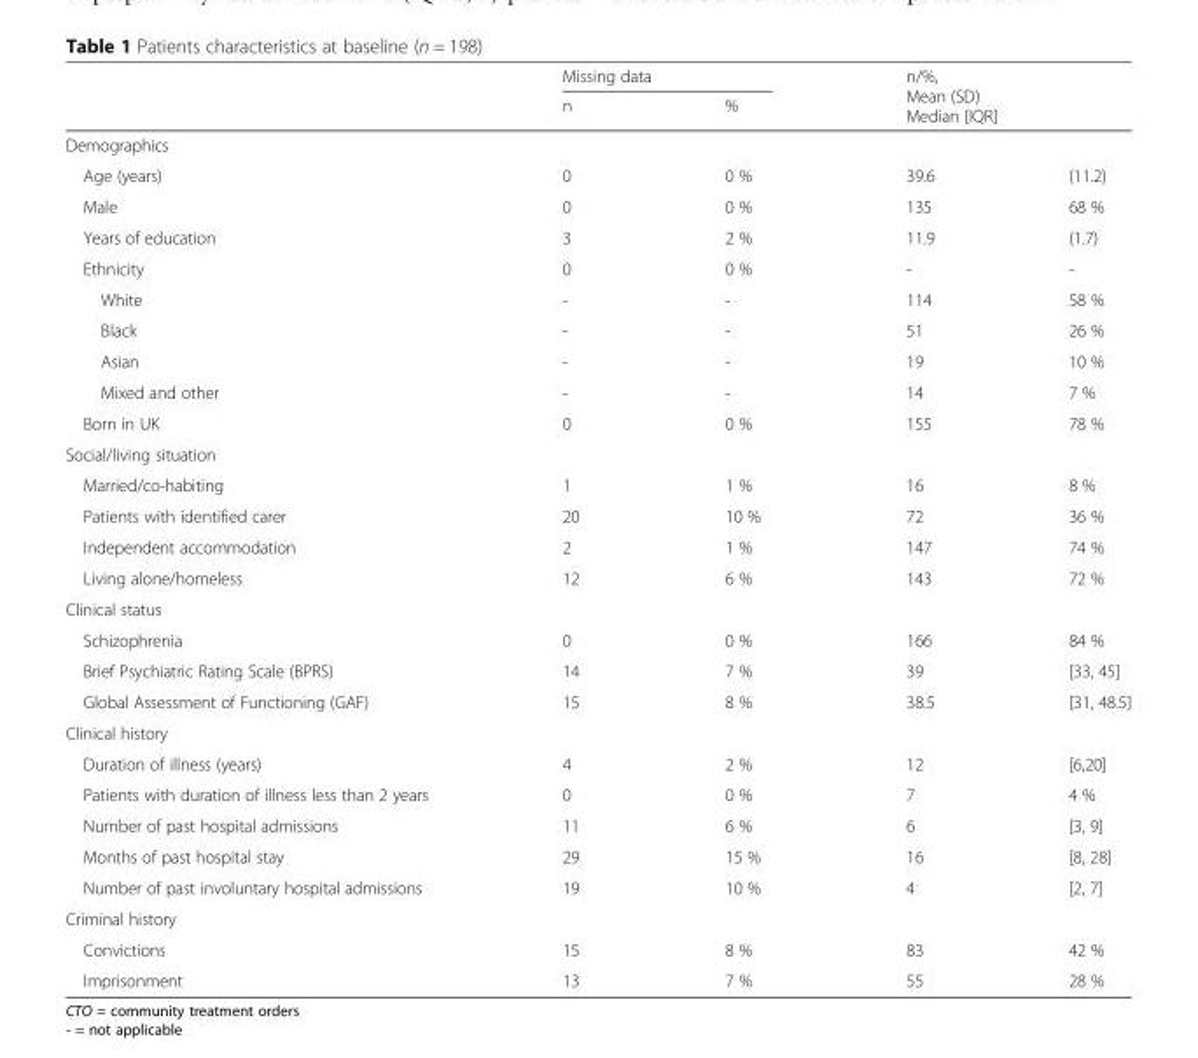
<table><thead><tr><td rowspan="3">Demographics</td><td colspan="2">Missing data</td><td rowspan="2" colspan="2">n/%, Mean (SD) Median [IQR]</td></tr><tr><td rowspan="2">n</td><td rowspan="2">%</td></tr><tr><td></td><td></td></tr></thead><tbody><tr><td>Age (years)</td><td>0</td><td>0 %</td><td>39.6</td><td>(11.2)</td></tr><tr><td>Male</td><td>0</td><td>0 %</td><td>135</td><td>68 %</td></tr><tr><td>Years of education</td><td>3</td><td>2 %</td><td>11.9</td><td>(1.7)</td></tr><tr><td>Ethnicity</td><td>0</td><td>0 %</td><td>-</td><td>-</td></tr><tr><td>White</td><td>-</td><td>-</td><td>114</td><td>58 %</td></tr><tr><td>Black</td><td>-</td><td>-</td><td>51</td><td>26 %</td></tr><tr><td>Asian</td><td>-</td><td>-</td><td>19</td><td>10 %</td></tr><tr><td>Mixed and other</td><td>-</td><td>-</td><td>14</td><td>7 %</td></tr><tr><td>Born in UK</td><td>0</td><td>0 %</td><td>155</td><td>78 %</td></tr><tr><td colspan="5">Social/living situation</td></tr><tr><td>Married/co-habiting</td><td>1</td><td>1 %</td><td>16</td><td>8 %</td></tr><tr><td>Patients with identified carer</td><td>20</td><td>10 %</td><td>72</td><td>36 %</td></tr><tr><td>Independent accommodation</td><td>2</td><td>1 %</td><td>147</td><td>74 %</td></tr><tr><td>Living alone/homeless</td><td>12</td><td>6 %</td><td>143</td><td>72 %</td></tr><tr><td colspan="5">Clinical status</td></tr><tr><td>Schizophrenia</td><td>0</td><td>0 %</td><td>166</td><td>84 %</td></tr><tr><td>Brief Psychiatric Rating Scale (BPRS)</td><td>14</td><td>7 %</td><td>39</td><td>[33, 45]</td></tr><tr><td>Global Assessment of Functioning (GAF)</td><td>15</td><td>8 %</td><td>38.5</td><td>[31, 48.5]</td></tr><tr><td colspan="5">Clinical history</td></tr><tr><td>Duration of illness (years)</td><td>4</td><td>2 %</td><td>12</td><td>[6,20]</td></tr><tr><td>Patients with duration of illness less than 2 years</td><td>0</td><td>0 %</td><td>7</td><td>4 %</td></tr><tr><td>Number of past hospital admissions</td><td>11</td><td>6 %</td><td>6</td><td>[3, 9]</td></tr><tr><td>Months of past hospital stay</td><td>29</td><td>15 %</td><td>16</td><td>[8, 28]</td></tr><tr><td>Number of past involuntary hospital admissions</td><td>19</td><td>10 %</td><td>4</td><td>[2, 7]</td></tr><tr><td colspan="5">Criminal history</td></tr><tr><td>Convictions</td><td>15</td><td>8 %</td><td>83</td><td>42 %</td></tr><tr><td>Imprisonment</td><td>13</td><td>7 %</td><td>55</td><td>28 %</td></tr></tbody></table>